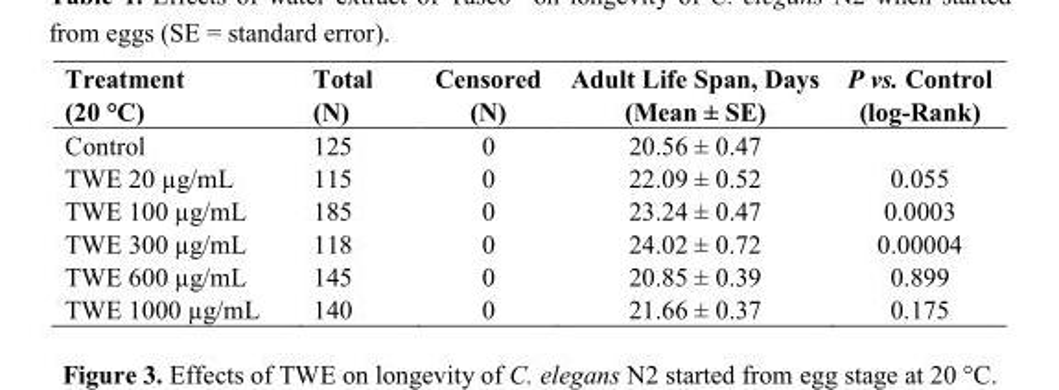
<table><thead><tr><td>Treatment (20 °C)</td><td>Total (N)</td><td>Censored (N)</td><td>Adult Life Span, Days (Mean ± SE)</td><td>P vs. Control (log-Rank)</td></tr></thead><tbody><tr><td>Control</td><td>125</td><td>0</td><td>20.56 ± 0.47</td><td></td></tr><tr><td>TWE 20 µg/mL</td><td>115</td><td>0</td><td>22.09 ± 0.52</td><td>0.055</td></tr><tr><td>TWE 100 µg/mL</td><td>185</td><td>0</td><td>23.24 ± 0.47</td><td>0.0003</td></tr><tr><td>TWE 300 µg/mL</td><td>118</td><td>0</td><td>24.02 ± 0.72</td><td>0.00004</td></tr><tr><td>TWE 600 µg/mL</td><td>145</td><td>0</td><td>20.85 ± 0.39</td><td>0.899</td></tr><tr><td>TWE 1000 µg/mL</td><td>140</td><td>0</td><td>21.66 ± 0.37</td><td>0.175</td></tr></tbody></table>